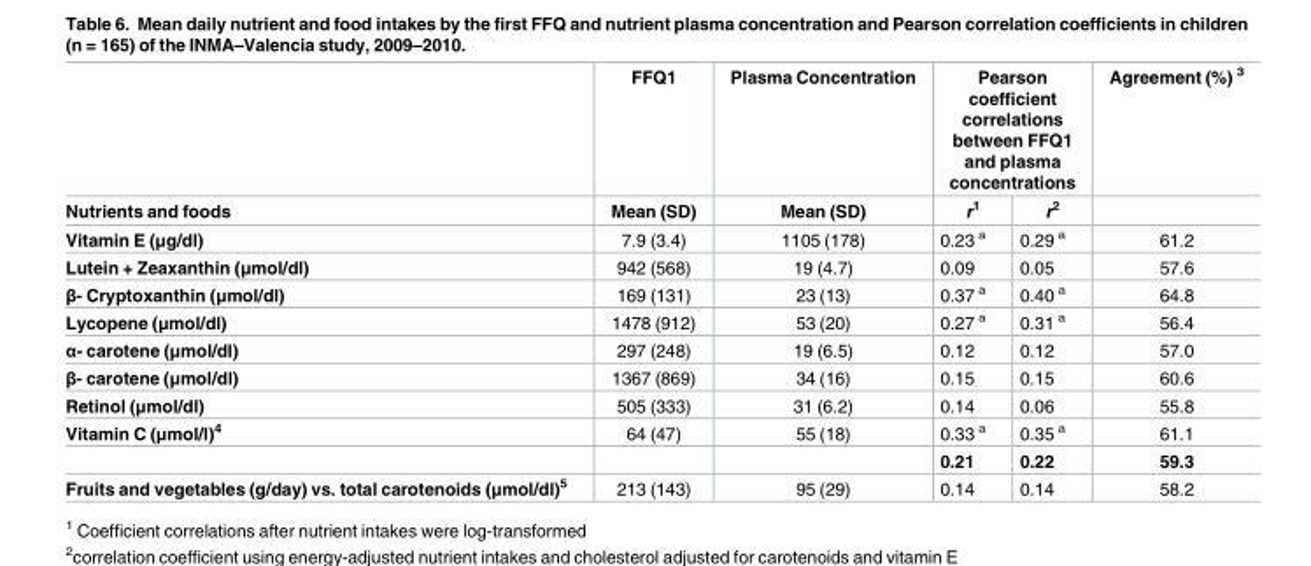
<table><thead><tr><td rowspan="2">Nutrients and foods</td><td rowspan="2">FFQ1 Mean (SD)</td><td rowspan="2">Plasma Concentration Mean (SD)</td><td colspan="2">Pearson coefficient correlations between FFQ1 and plasma concentrations</td><td rowspan="2">Agreement (%) <sup>3</sup></td></tr><tr><td>r<sup>1</sup></td><td>r<sup>2</sup></td></tr></thead><tbody><tr><td>Vitamin E (μg/dl)</td><td>7.9 (3.4)</td><td>1105 (178)</td><td>0.23 <sup>a</sup></td><td>0.29 <sup>a</sup></td><td>61.2</td></tr><tr><td>Lutein + Zeaxanthin (μmol/dl)</td><td>942 (568)</td><td>19 (4.7)</td><td>0.09</td><td>0.05</td><td>57.6</td></tr><tr><td>β- Cryptoxanthin (μmol/dl)</td><td>169 (131)</td><td>23 (13)</td><td>0.37 <sup>a</sup></td><td>0.40 <sup>a</sup></td><td>64.8</td></tr><tr><td>Lycopene (μmol/dl)</td><td>1478 (912)</td><td>53 (20)</td><td>0.27 <sup>a</sup></td><td>0.31 <sup>a</sup></td><td>56.4</td></tr><tr><td>α- carotene (μmol/dl)</td><td>297 (248)</td><td>19 (6.5)</td><td>0.12</td><td>0.12</td><td>57.0</td></tr><tr><td>β- carotene (μmol/dl)</td><td>1367 (869)</td><td>34 (16)</td><td>0.15</td><td>0.15</td><td>60.6</td></tr><tr><td>Retinol (μmol/dl)</td><td>505 (333)</td><td>31 (6.2)</td><td>0.14</td><td>0.06</td><td>55.8</td></tr><tr><td rowspan="2">Vitamin C (μmol/l)<sup>4</sup></td><td>64 (47)</td><td>55 (18)</td><td>0.33 <sup>a</sup></td><td>0.35 <sup>a</sup></td><td>61.1</td></tr><tr><td></td><td></td><td>0.21</td><td>0.22</td><td>59.3</td></tr><tr><td>Fruits and vegetables (g/day) vs. total carotenoids (μmol/dl)<sup>5</sup></td><td>213 (143)</td><td>95 (29)</td><td>0.14</td><td>0.14</td><td>58.2</td></tr></tbody></table>